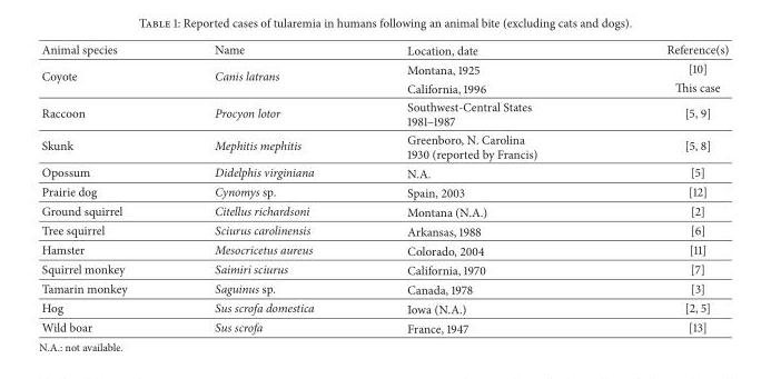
<table><thead><tr><td>Animal species</td><td>Name</td><td>Location, date</td><td>Reference(s)</td></tr></thead><tbody><tr><td rowspan="2">Coyote</td><td rowspan="2">Canis latrans</td><td>Montana, 1925</td><td>[10]</td></tr><tr><td>California, 1996</td><td>This case</td></tr><tr><td>Raccoon</td><td>Procyon lotor</td><td>Southwest-Central States 1981–1987</td><td>[5, 9]</td></tr><tr><td>Skunk</td><td>Mephitis mephitis</td><td>Greenboro, N. Carolina 1930 (reported by Francis)</td><td>[5, 8]</td></tr><tr><td>Opossum</td><td>Didelphis virginiana</td><td>N.A.</td><td>[5]</td></tr><tr><td>Prairie dog</td><td>Cynomys sp.</td><td>Spain, 2003</td><td>[12]</td></tr><tr><td>Ground squirrel</td><td>Citellus richardsoni</td><td>Montana (N.A.)</td><td>[2]</td></tr><tr><td>Tree squirrel</td><td>Sciurus carolinensis</td><td>Arkansas, 1988</td><td>[6]</td></tr><tr><td>Hamster</td><td>Mesocricetus aureus</td><td>Colorado, 2004</td><td>[11]</td></tr><tr><td>Squirrel monkey</td><td>Saimiri sciurus</td><td>California, 1970</td><td>[7]</td></tr><tr><td>Tamarin monkey</td><td>Saguinus sp.</td><td>Canada, 1978</td><td>[3]</td></tr><tr><td>Hog</td><td>Sus scrofa domestica</td><td>Iowa (N.A.)</td><td>[2, 5]</td></tr><tr><td>Wild boar</td><td>Sus scrofa</td><td>France, 1947</td><td>[13]</td></tr></tbody></table>